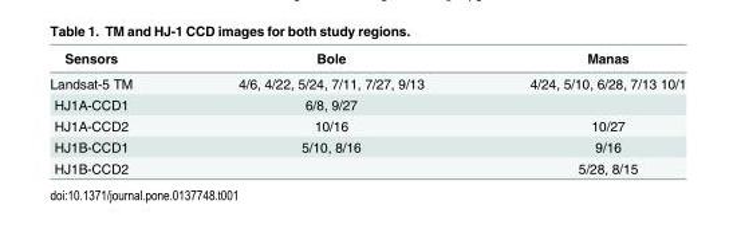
<table><thead><tr><td>Sensors</td><td>Bole</td><td>Manas</td></tr></thead><tbody><tr><td>Landsat-5 TM</td><td>4/6, 4/22, 5/24, 7/11, 7/27, 9/13</td><td>4/24, 5/10, 6/28, 7/13 10/1</td></tr><tr><td>HJ1A-CCD1</td><td>6/8, 9/27</td><td></td></tr><tr><td>HJ1A-CCD2</td><td>10/16</td><td>10/27</td></tr><tr><td>HJ1B-CCD1</td><td>5/10, 8/16</td><td>9/16</td></tr><tr><td>HJ1B-CCD2</td><td></td><td>5/28, 8/15</td></tr></tbody></table>